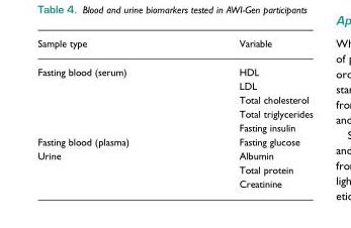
<table><thead><tr><td>Sample type</td><td>Variable</td></tr></thead><tbody><tr><td rowspan="5">Fasting blood (serum)</td><td>HDL</td></tr><tr><td>LDL</td></tr><tr><td>Total cholesterol</td></tr><tr><td>Total triglycerides</td></tr><tr><td>Fasting insulin</td></tr><tr><td>Fasting blood (plasma)</td><td>Fasting glucose</td></tr><tr><td rowspan="3">Urine</td><td>Albumin</td></tr><tr><td>Total protein</td></tr><tr><td>Creatinine</td></tr></tbody></table>